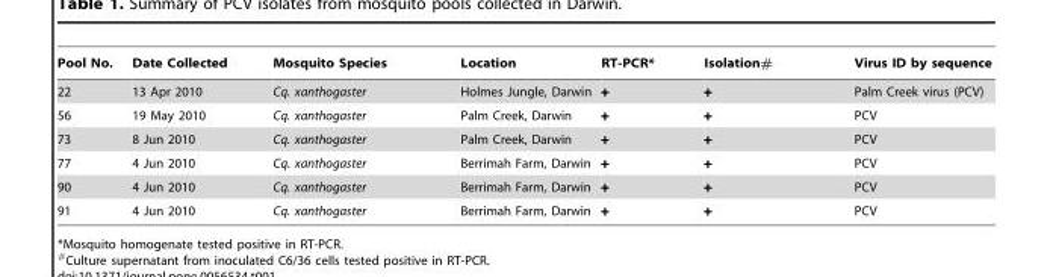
<table><thead><tr><td>Pool No.</td><td>Date Collected</td><td>Mosquito Species</td><td>Location</td><td>RT-PCR*</td><td>Isolation#</td><td>Virus ID by sequence</td></tr></thead><tbody><tr><td>22</td><td>13 Apr 2010</td><td>Cq. xanthogaster</td><td>Holmes Jungle, Darwin</td><td>+</td><td>+</td><td>Palm Creek virus (PCV)</td></tr><tr><td>56</td><td>19 May 2010</td><td>Cq. xanthogaster</td><td>Palm Creek, Darwin</td><td>+</td><td>+</td><td>PCV</td></tr><tr><td>73</td><td>8 Jun 2010</td><td>Cq. xanthogaster</td><td>Palm Creek, Darwin</td><td>+</td><td>+</td><td>PCV</td></tr><tr><td>77</td><td>4 Jun 2010</td><td>Cq. xanthogaster</td><td>Berrimah Farm, Darwin</td><td>+</td><td>+</td><td>PCV</td></tr><tr><td>90</td><td>4 Jun 2010</td><td>Cq. xanthogaster</td><td>Berrimah Farm, Darwin</td><td>+</td><td>+</td><td>PCV</td></tr><tr><td>91</td><td>4 Jun 2010</td><td>Cq. xanthogaster</td><td>Berrimah Farm, Darwin</td><td>+</td><td>+</td><td>PCV</td></tr></tbody></table>